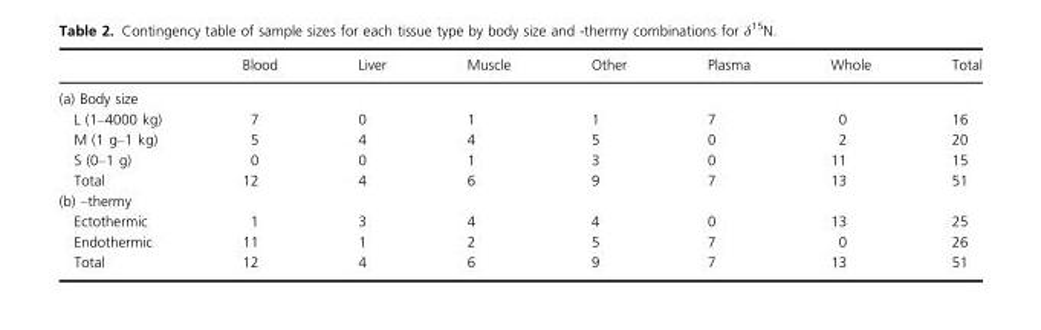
<table><thead><tr><td></td><td>Blood</td><td>Liver</td><td>Muscle</td><td>Other</td><td>Plasma</td><td>Whole</td><td>Total</td></tr></thead><tbody><tr><td colspan="8">(a) Body size</td></tr><tr><td>L (1–4000 kg)</td><td>7</td><td>0</td><td>1</td><td>1</td><td>7</td><td>0</td><td>16</td></tr><tr><td>M (1 g–1 kg)</td><td>5</td><td>4</td><td>4</td><td>5</td><td>0</td><td>2</td><td>20</td></tr><tr><td>S (0–1 g)</td><td>0</td><td>0</td><td>1</td><td>3</td><td>0</td><td>11</td><td>15</td></tr><tr><td>Total</td><td>12</td><td>4</td><td>6</td><td>9</td><td>7</td><td>13</td><td>51</td></tr><tr><td colspan="8">(b) –thermy</td></tr><tr><td>Ectothermic</td><td>1</td><td>3</td><td>4</td><td>4</td><td>0</td><td>13</td><td>25</td></tr><tr><td>Endothermic</td><td>11</td><td>1</td><td>2</td><td>5</td><td>7</td><td>0</td><td>26</td></tr><tr><td>Total</td><td>12</td><td>4</td><td>6</td><td>9</td><td>7</td><td>13</td><td>51</td></tr></tbody></table>